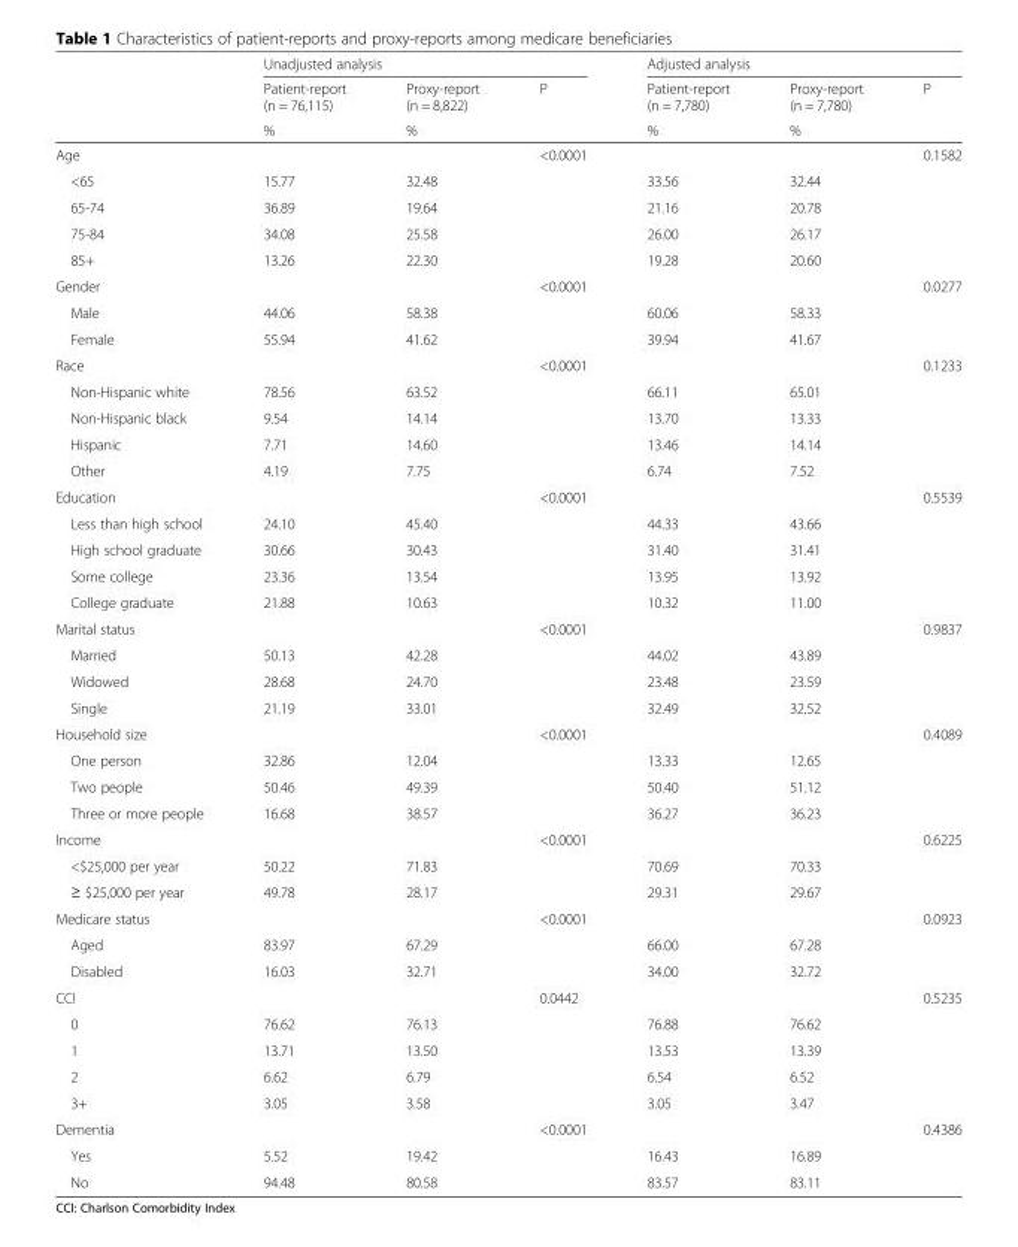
<table><thead><tr><td rowspan="3"></td><td colspan="3">Unadjusted analysis</td><td colspan="3">Adjusted analysis</td></tr><tr><td rowspan="2">Patient-report (n = 76,115) %</td><td rowspan="2">Proxy-report (n = 8,822) %</td><td rowspan="2">P</td><td rowspan="2">Patient-report (n = 7,780) %</td><td rowspan="2">Proxy-report (n = 7,780) %</td><td rowspan="2">P</td></tr><tr></tr></thead><tbody><tr><td>Age</td><td></td><td></td><td>&lt;0.0001</td><td></td><td></td><td>0.1582</td></tr><tr><td>&lt;65</td><td>15.77</td><td>32.48</td><td></td><td>33.56</td><td>32.44</td><td></td></tr><tr><td>65-74</td><td>36.89</td><td>19.64</td><td></td><td>21.16</td><td>20.78</td><td></td></tr><tr><td>75-84</td><td>34.08</td><td>25.58</td><td></td><td>26.00</td><td>26.17</td><td></td></tr><tr><td>85+</td><td>13.26</td><td>22.30</td><td></td><td>19.28</td><td>20.60</td><td></td></tr><tr><td>Gender</td><td></td><td></td><td>&lt;0.0001</td><td></td><td></td><td>0.0277</td></tr><tr><td>Male</td><td>44.06</td><td>58.38</td><td></td><td>60.06</td><td>58.33</td><td></td></tr><tr><td>Female</td><td>55.94</td><td>41.62</td><td></td><td>39.94</td><td>41.67</td><td></td></tr><tr><td>Race</td><td></td><td></td><td>&lt;0.0001</td><td></td><td></td><td>0.1233</td></tr><tr><td>Non-Hispanic white</td><td>78.56</td><td>63.52</td><td></td><td>66.11</td><td>65.01</td><td></td></tr><tr><td>Non-Hispanic black</td><td>9.54</td><td>14.14</td><td></td><td>13.70</td><td>13.33</td><td></td></tr><tr><td>Hispanic</td><td>7.71</td><td>14.60</td><td></td><td>13.46</td><td>14.14</td><td></td></tr><tr><td>Other</td><td>4.19</td><td>7.75</td><td></td><td>6.74</td><td>7.52</td><td></td></tr><tr><td>Education</td><td></td><td></td><td>&lt;0.0001</td><td></td><td></td><td>0.5539</td></tr><tr><td>Less than high school</td><td>24.10</td><td>45.40</td><td></td><td>44.33</td><td>43.66</td><td></td></tr><tr><td>High school graduate</td><td>30.66</td><td>30.43</td><td></td><td>31.40</td><td>31.41</td><td></td></tr><tr><td>Some college</td><td>23.36</td><td>13.54</td><td></td><td>13.95</td><td>13.92</td><td></td></tr><tr><td>College graduate</td><td>21.88</td><td>10.63</td><td></td><td>10.32</td><td>11.00</td><td></td></tr><tr><td>Marital status</td><td></td><td></td><td>&lt;0.0001</td><td></td><td></td><td>0.9837</td></tr><tr><td>Married</td><td>50.13</td><td>42.28</td><td></td><td>44.02</td><td>43.89</td><td></td></tr><tr><td>Widowed</td><td>28.68</td><td>24.70</td><td></td><td>23.48</td><td>23.59</td><td></td></tr><tr><td>Single</td><td>21.19</td><td>33.01</td><td></td><td>32.49</td><td>32.52</td><td></td></tr><tr><td>Household size</td><td></td><td></td><td>&lt;0.0001</td><td></td><td></td><td>0.4089</td></tr><tr><td>One person</td><td>32.86</td><td>12.04</td><td></td><td>13.33</td><td>12.65</td><td></td></tr><tr><td>Two people</td><td>50.46</td><td>49.39</td><td></td><td>50.40</td><td>51.12</td><td></td></tr><tr><td>Three or more people</td><td>16.68</td><td>38.57</td><td></td><td>36.27</td><td>36.23</td><td></td></tr><tr><td>Income</td><td></td><td></td><td>&lt;0.0001</td><td></td><td></td><td>0.6225</td></tr><tr><td>&lt;$25,000 per year</td><td>50.22</td><td>71.83</td><td></td><td>70.69</td><td>70.33</td><td></td></tr><tr><td>≥ $25,000 per year</td><td>49.78</td><td>28.17</td><td></td><td>29.31</td><td>29.67</td><td></td></tr><tr><td>Medicare status</td><td></td><td></td><td>&lt;0.0001</td><td></td><td></td><td>0.0923</td></tr><tr><td>Aged</td><td>83.97</td><td>67.29</td><td></td><td>66.00</td><td>67.28</td><td></td></tr><tr><td>Disabled</td><td>16.03</td><td>32.71</td><td></td><td>34.00</td><td>32.72</td><td></td></tr><tr><td>CCI</td><td></td><td></td><td>0.0442</td><td></td><td></td><td>0.5235</td></tr><tr><td>0</td><td>76.62</td><td>76.13</td><td></td><td>76.88</td><td>76.62</td><td></td></tr><tr><td>1</td><td>13.71</td><td>13.50</td><td></td><td>13.53</td><td>13.39</td><td></td></tr><tr><td>2</td><td>6.62</td><td>6.79</td><td></td><td>6.54</td><td>6.52</td><td></td></tr><tr><td>3+</td><td>3.05</td><td>3.58</td><td></td><td>3.05</td><td>3.47</td><td></td></tr><tr><td>Dementia</td><td></td><td></td><td>&lt;0.0001</td><td></td><td></td><td>0.4386</td></tr><tr><td>Yes</td><td>5.52</td><td>19.42</td><td></td><td>16.43</td><td>16.89</td><td></td></tr><tr><td>No</td><td>94.48</td><td>80.58</td><td></td><td>83.57</td><td>83.11</td><td></td></tr></tbody></table>